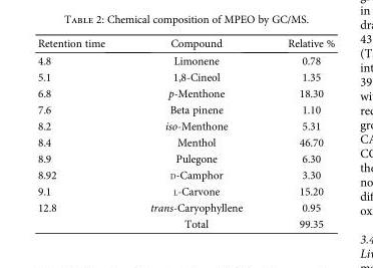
<table><thead><tr><td>Retention time</td><td>Compound</td><td>Relative %</td></tr></thead><tbody><tr><td>4.8</td><td>Limonene</td><td>0.78</td></tr><tr><td>5.1</td><td>1,8-Cineol</td><td>1.35</td></tr><tr><td>6.8</td><td>p-Menthone</td><td>18.30</td></tr><tr><td>7.6</td><td>Beta pinene</td><td>1.10</td></tr><tr><td>8.2</td><td>iso-Menthone</td><td>5.31</td></tr><tr><td>8.4</td><td>Menthol</td><td>46.70</td></tr><tr><td>8.9</td><td>Pulegone</td><td>6.30</td></tr><tr><td>8.92</td><td>D-Camphor</td><td>3.30</td></tr><tr><td>9.1</td><td>L-Carvone</td><td>15.20</td></tr><tr><td rowspan="2">12.8</td><td>trans-Caryophyllene</td><td>0.95</td></tr><tr><td>Total</td><td>99.35</td></tr></tbody></table>